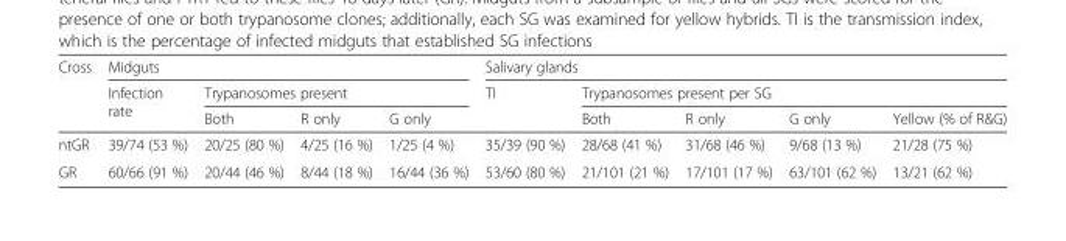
<table><thead><tr><td rowspan="3">Cross</td><td colspan="4">Midguts</td><td colspan="5">Salivary glands</td></tr><tr><td rowspan="2">Infection rate</td><td colspan="3">Trypanosomes present</td><td rowspan="2">TI</td><td colspan="4">Trypanosomes present per SG</td></tr><tr><td>Both</td><td>R only</td><td>G only</td><td>Both</td><td>R only</td><td>G only</td><td>Yellow (% of R&amp;G)</td></tr></thead><tbody><tr><td>ntGR</td><td>39/74 (53 %)</td><td>20/25 (80 %)</td><td>4/25 (16 %)</td><td>1/25 (4 %)</td><td>35/39 (90 %)</td><td>28/68 (41 %)</td><td>31/68 (46 %)</td><td>9/68 (13 %)</td><td>21/28 (75 %)</td></tr><tr><td>GR</td><td>60/66 (91 %)</td><td>20/44 (46 %)</td><td>8/44 (18 %)</td><td>16/44 (36 %)</td><td>53/60 (80 %)</td><td>21/101 (21 %)</td><td>17/101 (17 %)</td><td>63/101 (62 %)</td><td>13/21 (62 %)</td></tr></tbody></table>